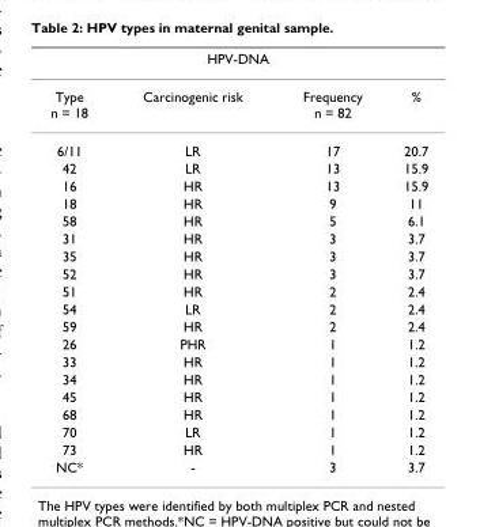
<table><thead><tr><td colspan="4">HPV-DNA</td></tr><tr><td>Type n = 18</td><td>Carcinogenic risk</td><td>Frequency n = 82</td><td>%</td></tr></thead><tbody><tr><td>6/11</td><td>LR</td><td>17</td><td>20.7</td></tr><tr><td>42</td><td>LR</td><td>13</td><td>15.9</td></tr><tr><td>16</td><td>HR</td><td>13</td><td>15.9</td></tr><tr><td>18</td><td>HR</td><td>9</td><td>11</td></tr><tr><td>58</td><td>HR</td><td>5</td><td>6.1</td></tr><tr><td>31</td><td>HR</td><td>3</td><td>3.7</td></tr><tr><td>35</td><td>HR</td><td>3</td><td>3.7</td></tr><tr><td>52</td><td>HR</td><td>3</td><td>3.7</td></tr><tr><td>51</td><td>HR</td><td>2</td><td>2.4</td></tr><tr><td>54</td><td>LR</td><td>2</td><td>2.4</td></tr><tr><td>59</td><td>HR</td><td>2</td><td>2.4</td></tr><tr><td>26</td><td>PHR</td><td>1</td><td>1.2</td></tr><tr><td>33</td><td>HR</td><td>1</td><td>1.2</td></tr><tr><td>34</td><td>HR</td><td>1</td><td>1.2</td></tr><tr><td>45</td><td>HR</td><td>1</td><td>1.2</td></tr><tr><td>68</td><td>HR</td><td>1</td><td>1.2</td></tr><tr><td>70</td><td>LR</td><td>1</td><td>1.2</td></tr><tr><td>73</td><td>HR</td><td>1</td><td>1.2</td></tr><tr><td>NC*</td><td>-</td><td>3</td><td>3.7</td></tr></tbody></table>